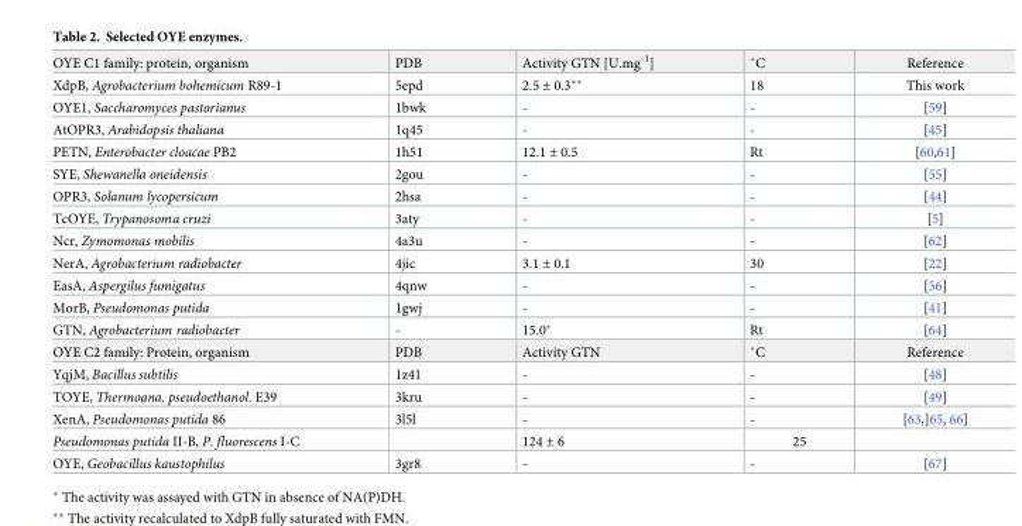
<table><tbody><tr><td>OYE C1 family: protein, organism</td><td>PDB</td><td>Activity GTN [U.mg<sup>-1</sup>]</td><td>˚C</td><td>Reference</td></tr><tr><td>XdpB, Agrobacterium bohemicum R89-1</td><td>5epd</td><td>2.5 ± 0.3**</td><td>18</td><td>This work</td></tr><tr><td>OYE1, Saccharomyces pastorianus</td><td>1bwk</td><td>-</td><td>-</td><td>[59]</td></tr><tr><td>AtOPR3, Arabidopsis thaliana</td><td>1q45</td><td>-</td><td>-</td><td>[45]</td></tr><tr><td>PETN, Enterobacter cloacae PB2</td><td>1h51</td><td>12.1 ± 0.5</td><td>Rt</td><td>[60,61]</td></tr><tr><td>SYE, Shewanella oneidensis</td><td>2gou</td><td>-</td><td>-</td><td>[55]</td></tr><tr><td>OPR3, Solanum lycopersicum</td><td>2hsa</td><td>-</td><td>-</td><td>[44]</td></tr><tr><td>TcOYE, Trypanosoma cruzi</td><td>3aty</td><td>-</td><td>-</td><td>[5]</td></tr><tr><td>Ncr, Zymomonas mobilis</td><td>4a3u</td><td>-</td><td>-</td><td>[62]</td></tr><tr><td>NerA, Agrobacterium radiobacter</td><td>4jic</td><td>3.1 ± 0.1</td><td>30</td><td>[22]</td></tr><tr><td>EasA, Aspergilus fumigatus</td><td>4qnw</td><td>-</td><td>-</td><td>[56]</td></tr><tr><td>MorB, Pseudomonas putida</td><td>1gwj</td><td>-</td><td>-</td><td>[41]</td></tr><tr><td>GTN, Agrobacterium radiobacter</td><td>-</td><td>15.0*</td><td>Rt</td><td>[64]</td></tr><tr><td>OYE C2 family: Protein, organism</td><td>PDB</td><td>Activity GTN</td><td>˚C</td><td>Reference</td></tr><tr><td>YqjM, Bacillus subtilis</td><td>1z41</td><td>-</td><td>-</td><td>[48]</td></tr><tr><td>TOYE, Thermoana. pseudoethanol. E39</td><td>3kru</td><td>-</td><td>-</td><td>[49]</td></tr><tr><td>XenA, Pseudomonas putida 86</td><td>3l5l</td><td>-</td><td>-</td><td>[63,]<sup>65</sup>, <sup>66</sup>]</td></tr><tr><td>Pseudomonas putida II-B, P. fluorescens I-C</td><td></td><td>124 ± 6</td><td>25</td><td></td></tr><tr><td>OYE, Geobacillus kaustophilus</td><td>3gr8</td><td>-</td><td>-</td><td>[67]</td></tr></tbody></table>